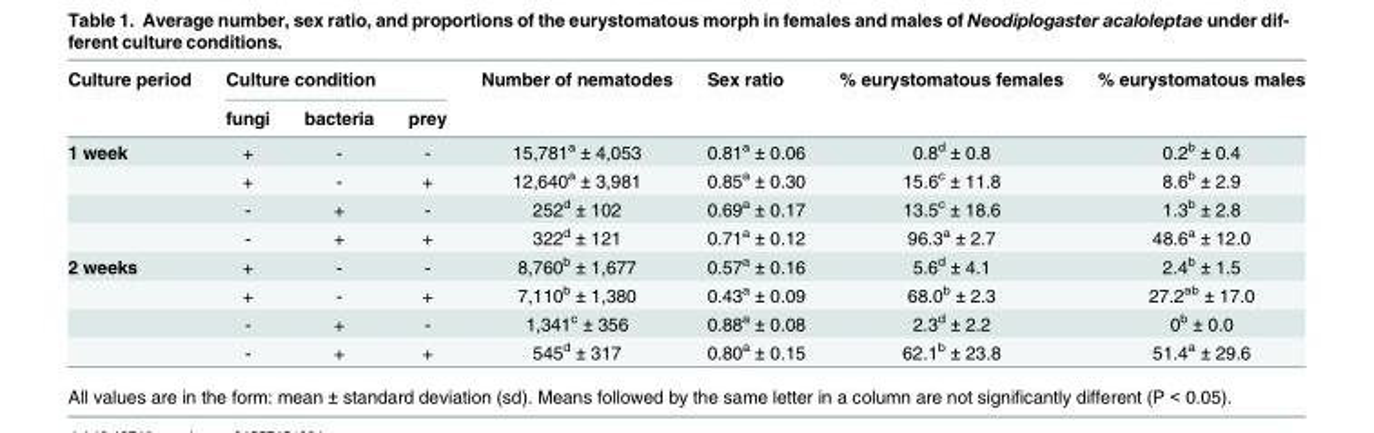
<table><thead><tr><td rowspan="2">Culture period</td><td colspan="3">Culture condition</td><td rowspan="2">Number of nematodes</td><td rowspan="2">Sex ratio</td><td rowspan="2">% eurystomatous females</td><td rowspan="2">% eurystomatous males</td></tr><tr><td>fungi</td><td>bacteria</td><td>prey</td></tr></thead><tbody><tr><td rowspan="4">1 week</td><td>+</td><td>-</td><td>-</td><td>15,781<sup>a</sup> ± 4,053</td><td>0.81<sup>a</sup> ± 0.06</td><td>0.8<sup>d</sup> ± 0.8</td><td>0.2<sup>b</sup> ± 0.4</td></tr><tr><td>+</td><td>-</td><td>+</td><td>12,640<sup>a</sup> ± 3,981</td><td>0.85<sup>a</sup> ± 0.30</td><td>15.6<sup>c</sup> ± 11.8</td><td>8.6<sup>b</sup> ± 2.9</td></tr><tr><td>-</td><td>+</td><td>-</td><td>252<sup>d</sup> ± 102</td><td>0.69<sup>a</sup> ± 0.17</td><td>13.5<sup>c</sup> ± 18.6</td><td>1.3<sup>b</sup> ± 2.8</td></tr><tr><td>-</td><td>+</td><td>+</td><td>322<sup>d</sup> ± 121</td><td>0.71<sup>a</sup> ± 0.12</td><td>96.3<sup>a</sup> ± 2.7</td><td>48.6<sup>a</sup> ± 12.0</td></tr><tr><td rowspan="4">2 weeks</td><td>+</td><td>-</td><td>-</td><td>8,760<sup>b</sup> ± 1,677</td><td>0.57<sup>a</sup> ± 0.16</td><td>5.6<sup>d</sup> ± 4.1</td><td>2.4<sup>b</sup> ± 1.5</td></tr><tr><td>+</td><td>-</td><td>+</td><td>7,110<sup>b</sup> ± 1,380</td><td>0.43<sup>a</sup> ± 0.09</td><td>68.0<sup>b</sup> ± 2.3</td><td>27.2<sup>ab</sup> ± 17.0</td></tr><tr><td>-</td><td>+</td><td>-</td><td>1,341<sup>c</sup> ± 356</td><td>0.88<sup>a</sup> ± 0.08</td><td>2.3<sup>d</sup> ± 2.2</td><td>0<sup>b</sup> ± 0.0</td></tr><tr><td>-</td><td>+</td><td>+</td><td>545<sup>d</sup> ± 317</td><td>0.80<sup>a</sup> ± 0.15</td><td>62.1<sup>b</sup> ± 23.8</td><td>51.4<sup>a</sup> ± 29.6</td></tr></tbody></table>